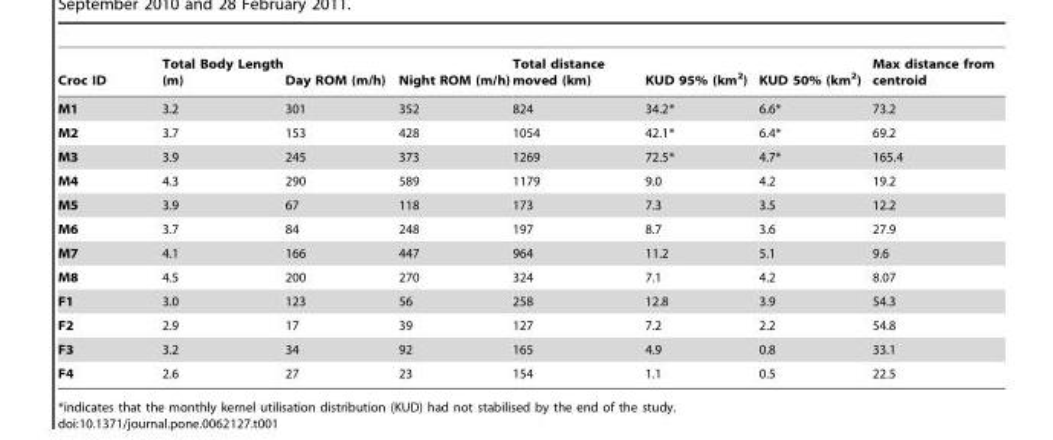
<table><thead><tr><td>Croc ID</td><td>Total Body Length (m)</td><td>Day ROM (m/h)</td><td>Night ROM (m/h)</td><td>Total distance moved (km)</td><td>KUD 95% (km<sup>2</sup>)</td><td>KUD 50% (km<sup>2</sup>)</td><td>Max distance from centroid</td></tr></thead><tbody><tr><td>M1</td><td>3.2</td><td>301</td><td>352</td><td>824</td><td>34.2*</td><td>6.6*</td><td>73.2</td></tr><tr><td>M2</td><td>3.7</td><td>153</td><td>428</td><td>1054</td><td>42.1*</td><td>6.4*</td><td>69.2</td></tr><tr><td>M3</td><td>3.9</td><td>245</td><td>373</td><td>1269</td><td>72.5*</td><td>4.7*</td><td>165.4</td></tr><tr><td>M4</td><td>4.3</td><td>290</td><td>589</td><td>1179</td><td>9.0</td><td>4.2</td><td>19.2</td></tr><tr><td>M5</td><td>3.9</td><td>67</td><td>118</td><td>173</td><td>7.3</td><td>3.5</td><td>12.2</td></tr><tr><td>M6</td><td>3.7</td><td>84</td><td>248</td><td>197</td><td>8.7</td><td>3.6</td><td>27.9</td></tr><tr><td>M7</td><td>4.1</td><td>166</td><td>447</td><td>964</td><td>11.2</td><td>5.1</td><td>9.6</td></tr><tr><td>M8</td><td>4.5</td><td>200</td><td>270</td><td>324</td><td>7.1</td><td>4.2</td><td>8.07</td></tr><tr><td>F1</td><td>3.0</td><td>123</td><td>56</td><td>258</td><td>12.8</td><td>3.9</td><td>54.3</td></tr><tr><td>F2</td><td>2.9</td><td>17</td><td>39</td><td>127</td><td>7.2</td><td>2.2</td><td>54.8</td></tr><tr><td>F3</td><td>3.2</td><td>34</td><td>92</td><td>165</td><td>4.9</td><td>0.8</td><td>33.1</td></tr><tr><td>F4</td><td>2.6</td><td>27</td><td>23</td><td>154</td><td>1.1</td><td>0.5</td><td>22.5</td></tr></tbody></table>